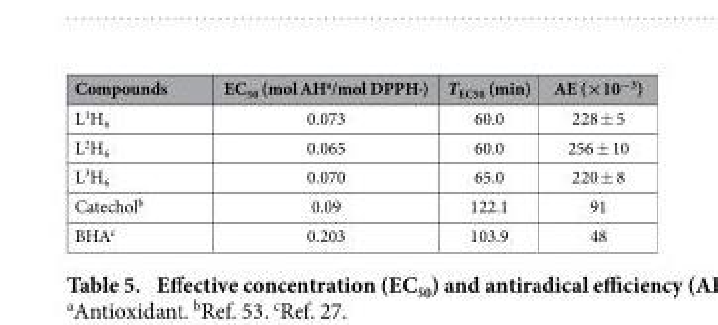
<table><thead><tr><td>Compounds</td><td>EC<sub>50</sub> (mol AH<sup>a</sup>/mol DPPH·)</td><td>T<sub>EC50</sub> (min)</td><td>AE (×10<sup>−3</sup>)</td></tr></thead><tbody><tr><td>L<sup>1</sup>H<sub>6</sub></td><td>0.073</td><td>60.0</td><td>228 ± 5</td></tr><tr><td>L<sup>2</sup>H<sub>6</sub></td><td>0.065</td><td>60.0</td><td>256 ± 10</td></tr><tr><td>L<sup>3</sup>H<sub>6</sub></td><td>0.070</td><td>65.0</td><td>220 ± 8</td></tr><tr><td>Catechol<sup>b</sup></td><td>0.09</td><td>122.1</td><td>91</td></tr><tr><td>BHA<sup>c</sup></td><td>0.203</td><td>103.9</td><td>48</td></tr></tbody></table>